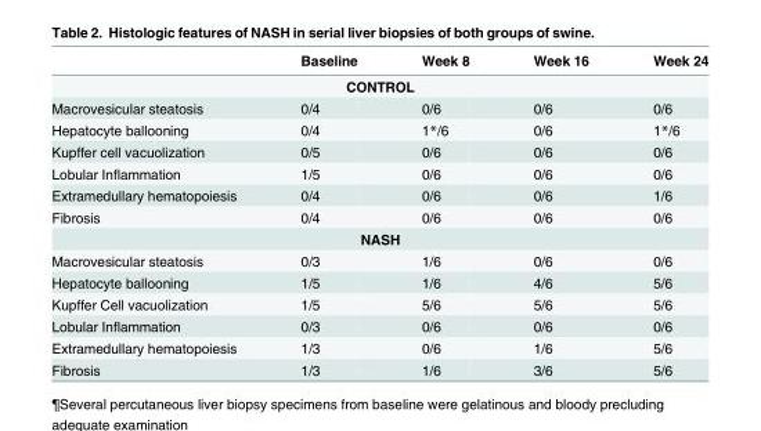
<table><thead><tr><td></td><td>Baseline</td><td>Week 8</td><td>Week 16</td><td>Week 24</td></tr></thead><tbody><tr><td colspan="5">CONTROL</td></tr><tr><td>Macrovesicular steatosis</td><td>0/4</td><td>0/6</td><td>0/6</td><td>0/6</td></tr><tr><td>Hepatocyte ballooning</td><td>0/4</td><td>1*/6</td><td>0/6</td><td>1*/6</td></tr><tr><td>Kupffer cell vacuolization</td><td>0/5</td><td>0/6</td><td>0/6</td><td>0/6</td></tr><tr><td>Lobular Inflammation</td><td>1/5</td><td>0/6</td><td>0/6</td><td>0/6</td></tr><tr><td>Extramedullary hematopoiesis</td><td>0/4</td><td>0/6</td><td>0/6</td><td>1/6</td></tr><tr><td>Fibrosis</td><td>0/4</td><td>0/6</td><td>0/6</td><td>0/6</td></tr><tr><td colspan="5">NASH</td></tr><tr><td>Macrovesicular steatosis</td><td>0/3</td><td>1/6</td><td>0/6</td><td>0/6</td></tr><tr><td>Hepatocyte ballooning</td><td>1/5</td><td>1/6</td><td>4/6</td><td>5/6</td></tr><tr><td>Kupffer Cell vacuolization</td><td>1/5</td><td>5/6</td><td>5/6</td><td>5/6</td></tr><tr><td>Lobular Inflammation</td><td>0/3</td><td>0/6</td><td>0/6</td><td>0/6</td></tr><tr><td>Extramedullary hematopoiesis</td><td>1/3</td><td>0/6</td><td>1/6</td><td>5/6</td></tr><tr><td>Fibrosis</td><td>1/3</td><td>1/6</td><td>3/6</td><td>5/6</td></tr></tbody></table>